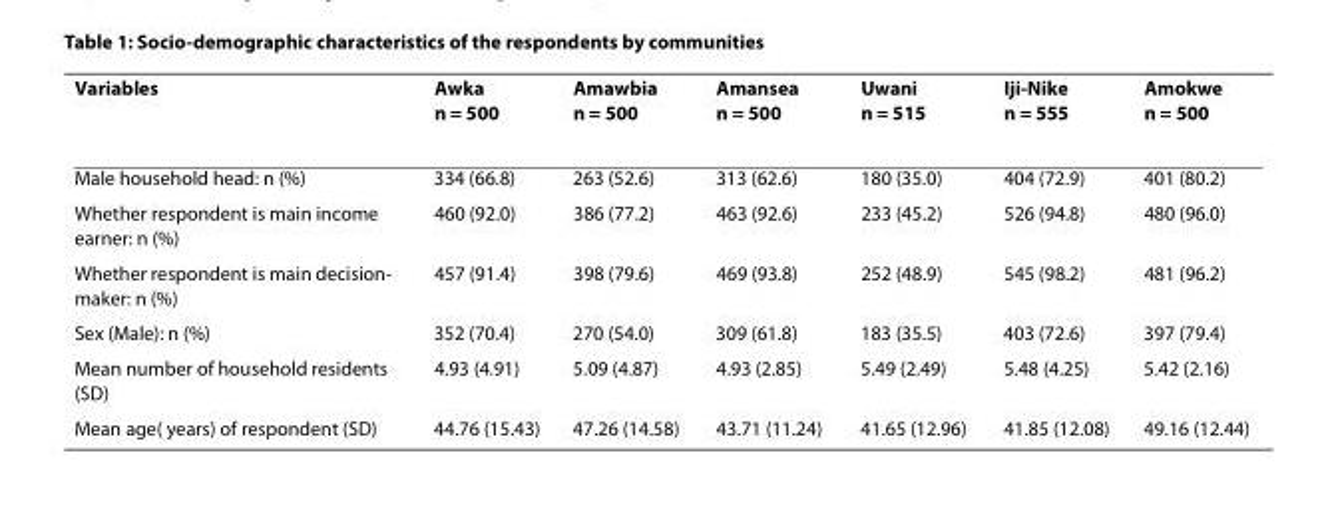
<table><thead><tr><td>Variables</td><td>Awka n = 500</td><td>Amawbia n = 500</td><td>Amansea n = 500</td><td>Uwani n = 515</td><td>Iji-Nike n = 555</td><td>Amokwe n = 500</td></tr></thead><tbody><tr><td>Male household head: n (%)</td><td>334 (66.8)</td><td>263 (52.6)</td><td>313 (62.6)</td><td>180 (35.0)</td><td>404 (72.9)</td><td>401 (80.2)</td></tr><tr><td>Whether respondent is main income earner: n (%)</td><td>460 (92.0)</td><td>386 (77.2)</td><td>463 (92.6)</td><td>233 (45.2)</td><td>526 (94.8)</td><td>480 (96.0)</td></tr><tr><td>Whether respondent is main decision- maker: n (%)</td><td>457 (91.4)</td><td>398 (79.6)</td><td>469 (93.8)</td><td>252 (48.9)</td><td>545 (98.2)</td><td>481 (96.2)</td></tr><tr><td>Sex (Male): n (%)</td><td>352 (70.4)</td><td>270 (54.0)</td><td>309 (61.8)</td><td>183 (35.5)</td><td>403 (72.6)</td><td>397 (79.4)</td></tr><tr><td>Mean number of household residents (SD)</td><td>4.93 (4.91)</td><td>5.09 (4.87)</td><td>4.93 (2.85)</td><td>5.49 (2.49)</td><td>5.48 (4.25)</td><td>5.42 (2.16)</td></tr><tr><td>Mean age( years) of respondent (SD)</td><td>44.76 (15.43)</td><td>47.26 (14.58)</td><td>43.71 (11.24)</td><td>41.65 (12.96)</td><td>41.85 (12.08)</td><td>49.16 (12.44)</td></tr></tbody></table>